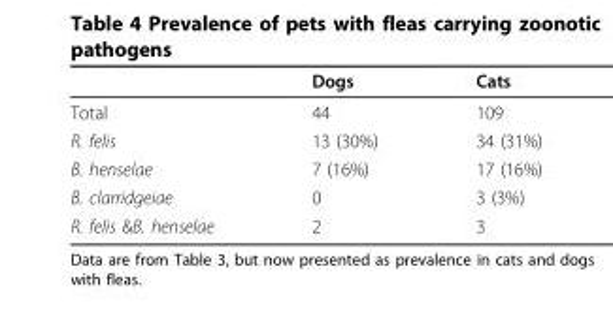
<table><thead><tr><td></td><td>Dogs</td><td>Cats</td></tr></thead><tbody><tr><td>Total</td><td>44</td><td>109</td></tr><tr><td>R. felis</td><td>13 (30%)</td><td>34 (31%)</td></tr><tr><td>B. henselae</td><td>7 (16%)</td><td>17 (16%)</td></tr><tr><td>B. clarridgeiae</td><td>0</td><td>3 (3%)</td></tr><tr><td>R. felis &amp;B. henselae</td><td>2</td><td>3</td></tr></tbody></table>